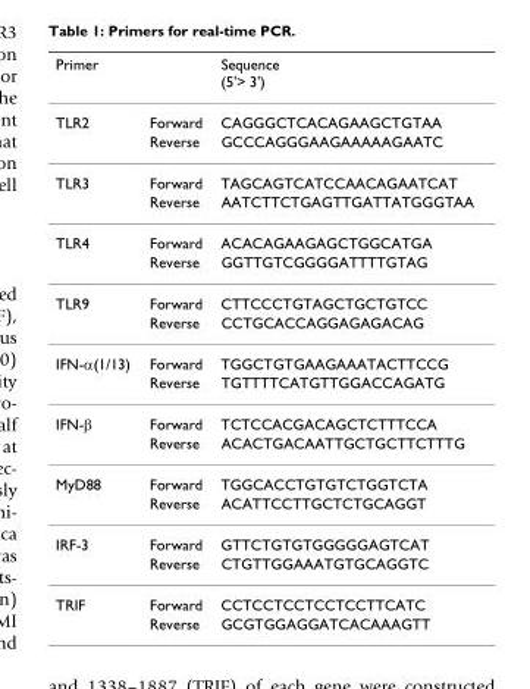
<table><thead><tr><td>Primer</td><td></td><td>Sequence (5&#x27;&gt; 3&#x27;)</td></tr></thead><tbody><tr><td rowspan="2">TLR2</td><td>Forward</td><td>CAGGGCTCACAGAAGCTGTAA</td></tr><tr><td>Reverse</td><td>GCCCAGGGAAGAAAAAGAATC</td></tr><tr><td rowspan="2">TLR3</td><td>Forward</td><td>TAGCAGTCATCCAACAGAATCAT</td></tr><tr><td>Reverse</td><td>AATCTTCTGAGTTGATTATGGGTAA</td></tr><tr><td rowspan="2">TLR4</td><td>Forward</td><td>ACACAGAAGAGCTGGCATGA</td></tr><tr><td>Reverse</td><td>GGTTGTCGGGGATTTTGTAG</td></tr><tr><td rowspan="2">TLR9</td><td>Forward</td><td>CTTCCCTGTAGCTGCTGTCC</td></tr><tr><td>Reverse</td><td>CCTGCACCAGGAGAGACAG</td></tr><tr><td rowspan="2">IFN-α(1/13)</td><td>Forward</td><td>TGGCTGTGAAGAAATACTTCCG</td></tr><tr><td>Reverse</td><td>TGTTTTCATGTTGGACCAGATG</td></tr><tr><td rowspan="2">IFN-β</td><td>Forward</td><td>TCTCCACGACAGCTCTTTCCA</td></tr><tr><td>Reverse</td><td>ACACTGACAATTGCTGCTTCTTTG</td></tr><tr><td rowspan="2">MyD88</td><td>Forward</td><td>TGGCACCTGTGTCTGGTCTA</td></tr><tr><td>Reverse</td><td>ACATTCCTTGCTCTGCAGGT</td></tr><tr><td rowspan="2">IRF-3</td><td>Forward</td><td>GTTCTGTGTGGGGGAGTCAT</td></tr><tr><td>Reverse</td><td>CTGTTGGAAATGTGCAGGTC</td></tr><tr><td rowspan="2">TRIF</td><td>Forward</td><td>CCTCCTCCTCCTCCTTCATC</td></tr><tr><td>Reverse</td><td>GCGTGGAGGATCACAAAGTT</td></tr></tbody></table>